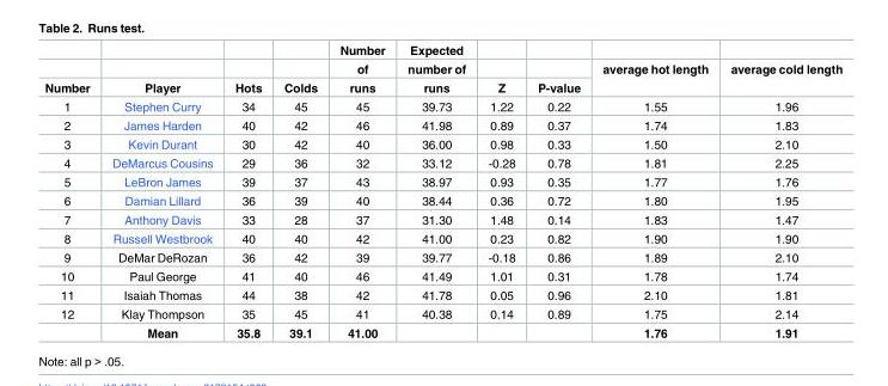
<table><thead><tr><td rowspan="3">Number</td><td rowspan="3">Player</td><td rowspan="3">Hots</td><td rowspan="3">Colds</td><td rowspan="3">Number of runs</td><td rowspan="3">Expected number of runs</td><td rowspan="3">Z</td><td rowspan="3">P-value</td><td rowspan="3">average hot length</td><td rowspan="3">average cold length</td></tr><tr></tr><tr></tr></thead><tbody><tr><td>1</td><td>Stephen Curry</td><td>34</td><td>45</td><td>45</td><td>39.73</td><td>1.22</td><td>0.22</td><td>1.55</td><td>1.96</td></tr><tr><td>2</td><td>James Harden</td><td>40</td><td>42</td><td>46</td><td>41.98</td><td>0.89</td><td>0.37</td><td>1.74</td><td>1.83</td></tr><tr><td>3</td><td>Kevin Durant</td><td>30</td><td>42</td><td>40</td><td>36.00</td><td>0.98</td><td>0.33</td><td>1.50</td><td>2.10</td></tr><tr><td>4</td><td>DeMarcus Cousins</td><td>29</td><td>36</td><td>32</td><td>33.12</td><td>-0.28</td><td>0.78</td><td>1.81</td><td>2.25</td></tr><tr><td>5</td><td>LeBron James</td><td>39</td><td>37</td><td>43</td><td>38.97</td><td>0.93</td><td>0.35</td><td>1.77</td><td>1.76</td></tr><tr><td>6</td><td>Damian Lillard</td><td>36</td><td>39</td><td>40</td><td>38.44</td><td>0.36</td><td>0.72</td><td>1.80</td><td>1.95</td></tr><tr><td>7</td><td>Anthony Davis</td><td>33</td><td>28</td><td>37</td><td>31.30</td><td>1.48</td><td>0.14</td><td>1.83</td><td>1.47</td></tr><tr><td>8</td><td>Russell Westbrook</td><td>40</td><td>40</td><td>42</td><td>41.00</td><td>0.23</td><td>0.82</td><td>1.90</td><td>1.90</td></tr><tr><td>9</td><td>DeMar DeRozan</td><td>36</td><td>42</td><td>39</td><td>39.77</td><td>-0.18</td><td>0.86</td><td>1.89</td><td>2.10</td></tr><tr><td>10</td><td>Paul George</td><td>41</td><td>40</td><td>46</td><td>41.49</td><td>1.01</td><td>0.31</td><td>1.78</td><td>1.74</td></tr><tr><td>11</td><td>Isaiah Thomas</td><td>44</td><td>38</td><td>42</td><td>41.78</td><td>0.05</td><td>0.96</td><td>2.10</td><td>1.81</td></tr><tr><td rowspan="2">12</td><td>Klay Thompson</td><td>35</td><td>45</td><td>41</td><td>40.38</td><td>0.14</td><td>0.89</td><td>1.75</td><td>2.14</td></tr><tr><td>Mean</td><td>35.8</td><td>39.1</td><td>41.00</td><td></td><td></td><td></td><td>1.76</td><td>1.91</td></tr></tbody></table>